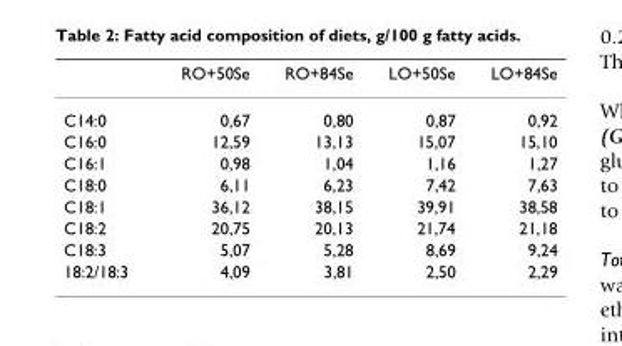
<table><thead><tr><td></td><td>RO+50Se</td><td>RO+84Se</td><td>LO+50Se</td><td>LO+84Se</td></tr></thead><tbody><tr><td>C14:0</td><td>0,67</td><td>0,80</td><td>0,87</td><td>0,92</td></tr><tr><td>C16:0</td><td>12,59</td><td>13,13</td><td>15,07</td><td>15,10</td></tr><tr><td>C16:1</td><td>0,98</td><td>1,04</td><td>1,16</td><td>1,27</td></tr><tr><td>C18:0</td><td>6,11</td><td>6,23</td><td>7,42</td><td>7,63</td></tr><tr><td>C18:1</td><td>36,12</td><td>38,15</td><td>39,91</td><td>38,58</td></tr><tr><td>C18:2</td><td>20,75</td><td>20,13</td><td>21,74</td><td>21,18</td></tr><tr><td>C18:3</td><td>5,07</td><td>5,28</td><td>8,69</td><td>9,24</td></tr><tr><td>18:2/18:3</td><td>4,09</td><td>3,81</td><td>2,50</td><td>2,29</td></tr></tbody></table>